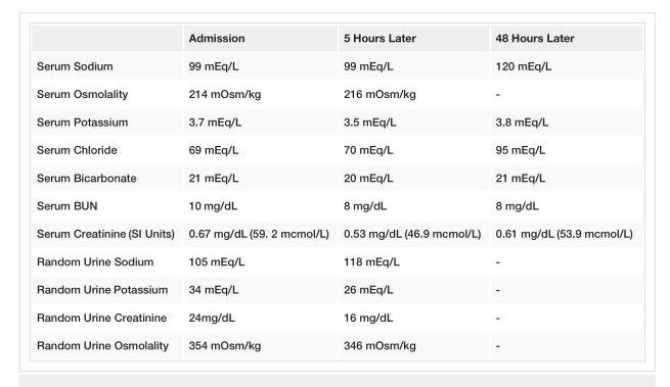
<table><thead><tr><td></td><td>Admission</td><td>5 Hours Later</td><td>48 Hours Later</td></tr></thead><tbody><tr><td>Serum Sodium</td><td>99 mEq/L</td><td>99 mEq/L</td><td>120 mEq/L</td></tr><tr><td>Serum Osmolality</td><td>214 mOsm/kg</td><td>216 mOsm/kg</td><td>-</td></tr><tr><td>Serum Potassium</td><td>3.7 mEq/L</td><td>3.5 mEq/L</td><td>3.8 mEq/L</td></tr><tr><td>Serum Chloride</td><td>69 mEq/L</td><td>70 mEq/L</td><td>95 mEq/L</td></tr><tr><td>Serum Bicarbonate</td><td>21 mEq/L</td><td>20 mEq/L</td><td>21 mEq/L</td></tr><tr><td>Serum BUN</td><td>10 mg/dL</td><td>8 mg/dL</td><td>8 mg/dL</td></tr><tr><td>Serum Creatinine (SI Units)</td><td>0.67 mg/dL (59. 2 mcmol/L)</td><td>0.53 mg/dL (46.9 mcmol/L)</td><td>0.61 mg/dL (53.9 mcmol/L)</td></tr><tr><td>Random Urine Sodium</td><td>105 mEq/L</td><td>118 mEq/L</td><td>-</td></tr><tr><td>Random Urine Potassium</td><td>34 mEq/L</td><td>26 mEq/L</td><td>-</td></tr><tr><td>Random Urine Creatinine</td><td>24mg/dL</td><td>16 mg/dL</td><td>-</td></tr><tr><td>Random Urine Osmolality</td><td>354 mOsm/kg</td><td>346 mOsm/kg</td><td>-</td></tr></tbody></table>